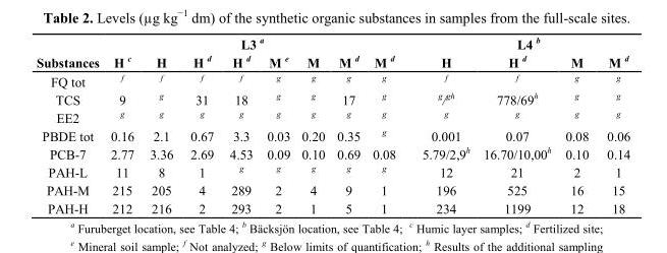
<table><thead><tr><td rowspan="2">Substances</td><td colspan="8">L3 <sup>a</sup></td><td colspan="4">L4 <sup>b</sup></td></tr><tr><td>H <sup>c</sup></td><td>H</td><td>H <sup>d</sup></td><td>H <sup>d</sup></td><td>M <sup>e</sup></td><td>M</td><td>M <sup>d</sup></td><td>M <sup>d</sup></td><td>H</td><td>H <sup>d</sup></td><td>M</td><td>M <sup>d</sup></td></tr></thead><tbody><tr><td>FQ tot</td><td><sup>f</sup></td><td><sup>f</sup></td><td><sup>f</sup></td><td><sup>f</sup></td><td><sup>g</sup></td><td><sup>g</sup></td><td><sup>g</sup></td><td><sup>g</sup></td><td><sup>f</sup></td><td><sup>f</sup></td><td><sup>g</sup></td><td><sup>g</sup></td></tr><tr><td>TCS</td><td>9</td><td><sup>g</sup></td><td>31</td><td>18</td><td><sup>g</sup></td><td><sup>g</sup></td><td>17</td><td><sup>g</sup></td><td><sup>g</sup>/<sup>gh</sup></td><td>778/69<sup>h</sup></td><td><sup>g</sup></td><td><sup>g</sup></td></tr><tr><td>EE2</td><td><sup>g</sup></td><td><sup>g</sup></td><td><sup>g</sup></td><td><sup>g</sup></td><td><sup>g</sup></td><td><sup>g</sup></td><td><sup>g</sup></td><td><sup>g</sup></td><td><sup>g</sup></td><td><sup>g</sup></td><td><sup>g</sup></td><td><sup>g</sup></td></tr><tr><td>PBDE tot</td><td>0.16</td><td>2.1</td><td>0.67</td><td>3.3</td><td>0.03</td><td>0.20</td><td>0.35</td><td><sup>g</sup></td><td>0.001</td><td>0.07</td><td>0.08</td><td>0.06</td></tr><tr><td>PCB-7</td><td>2.77</td><td>3.36</td><td>2.69</td><td>4.53</td><td>0.09</td><td>0.10</td><td>0.69</td><td>0.08</td><td>5.79/2,9<sup>h</sup></td><td>16.70/10,00<sup>h</sup></td><td>0.10</td><td>0.14</td></tr><tr><td>PAH-L</td><td>11</td><td>8</td><td>1</td><td><sup>g</sup></td><td><sup>g</sup></td><td><sup>g</sup></td><td><sup>g</sup></td><td><sup>g</sup></td><td>12</td><td>21</td><td>2</td><td>1</td></tr><tr><td>PAH-M</td><td>215</td><td>205</td><td>4</td><td>289</td><td>2</td><td>4</td><td>9</td><td>1</td><td>196</td><td>525</td><td>16</td><td>15</td></tr><tr><td>PAH-H</td><td>212</td><td>216</td><td>2</td><td>293</td><td>2</td><td>1</td><td>5</td><td>1</td><td>234</td><td>1199</td><td>12</td><td>18</td></tr></tbody></table>